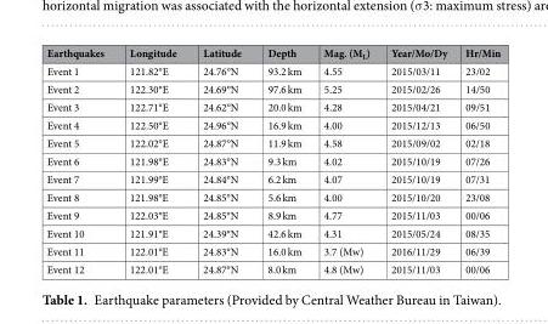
<table><thead><tr><td>Earthquakes</td><td>Longitude</td><td>Latitude</td><td>Depth</td><td>Mag. (M<sub>L</sub>)</td><td>Year/Mo/Dy</td><td>Hr/Min</td></tr></thead><tbody><tr><td>Event 1</td><td>121.82°E</td><td>24.76°N</td><td>93.2 km</td><td>4.55</td><td>2015/03/11</td><td>23/02</td></tr><tr><td>Event 2</td><td>122.30°E</td><td>24.69°N</td><td>97.6 km</td><td>5.25</td><td>2015/02/26</td><td>14/50</td></tr><tr><td>Event 3</td><td>122.71°E</td><td>24.62°N</td><td>20.0 km</td><td>4.28</td><td>2015/04/21</td><td>09/51</td></tr><tr><td>Event 4</td><td>122.50°E</td><td>24.96°N</td><td>16.9 km</td><td>4.00</td><td>2015/12/13</td><td>06/50</td></tr><tr><td>Event 5</td><td>122.02°E</td><td>24.87°N</td><td>11.9 km</td><td>4.58</td><td>2015/09/02</td><td>02/18</td></tr><tr><td>Event 6</td><td>121.98°E</td><td>24.83°N</td><td>9.3 km</td><td>4.02</td><td>2015/10/19</td><td>07/26</td></tr><tr><td>Event 7</td><td>121.99°E</td><td>24.84°N</td><td>6.2 km</td><td>4.07</td><td>2015/10/19</td><td>07/31</td></tr><tr><td>Event 8</td><td>121.98°E</td><td>24.85°N</td><td>5.6 km</td><td>4.00</td><td>2015/10/20</td><td>23/08</td></tr><tr><td>Event 9</td><td>122.03°E</td><td>24.85°N</td><td>8.9 km</td><td>4.77</td><td>2015/11/03</td><td>00/06</td></tr><tr><td>Event 10</td><td>121.91°E</td><td>24.39°N</td><td>42.6 km</td><td>4.31</td><td>2015/05/24</td><td>08/35</td></tr><tr><td>Event 11</td><td>122.01°E</td><td>24.83°N</td><td>16.0 km</td><td>3.7 (Mw)</td><td>2016/11/29</td><td>06/39</td></tr><tr><td>Event 12</td><td>122.01°E</td><td>24.87°N</td><td>8.0 km</td><td>4.8 (Mw)</td><td>2015/11/03</td><td>00/06</td></tr></tbody></table>